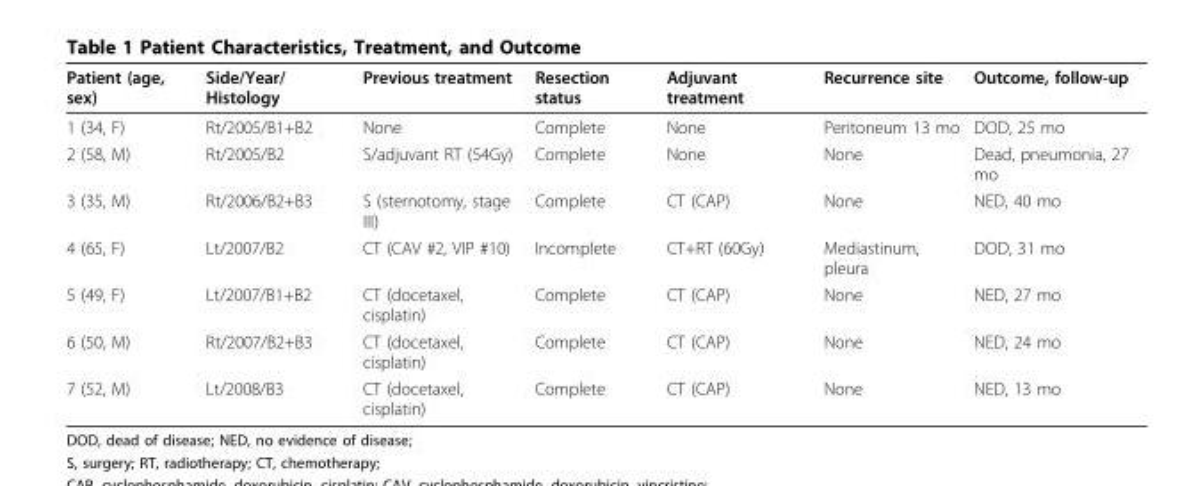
<table><thead><tr><td>Patient (age, sex)</td><td>Side/Year/ Histology</td><td>Previous treatment</td><td>Resection status</td><td>Adjuvant treatment</td><td>Recurrence site</td><td>Outcome, follow-up</td></tr></thead><tbody><tr><td>1 (34, F)</td><td>Rt/2005/B1+B2</td><td>None</td><td>Complete</td><td>None</td><td>Peritoneum 13 mo</td><td>DOD, 25 mo</td></tr><tr><td>2 (58, M)</td><td>Rt/2005/B2</td><td>S/adjuvant RT (54Gy)</td><td>Complete</td><td>None</td><td>None</td><td>Dead, pneumonia, 27 mo</td></tr><tr><td>3 (35, M)</td><td>Rt/2006/B2+B3</td><td>S (sternotomy, stage III)</td><td>Complete</td><td>CT (CAP)</td><td>None</td><td>NED, 40 mo</td></tr><tr><td>4 (65, F)</td><td>Lt/2007/B2</td><td>CT (CAV #2, VIP #10)</td><td>Incomplete</td><td>CT+RT (60Gy)</td><td>Mediastinum, pleura</td><td>DOD, 31 mo</td></tr><tr><td>5 (49, F)</td><td>Lt/2007/B1+B2</td><td>CT (docetaxel, cisplatin)</td><td>Complete</td><td>CT (CAP)</td><td>None</td><td>NED, 27 mo</td></tr><tr><td>6 (50, M)</td><td>Rt/2007/B2+B3</td><td>CT (docetaxel, cisplatin)</td><td>Complete</td><td>CT (CAP)</td><td>None</td><td>NED, 24 mo</td></tr><tr><td>7 (52, M)</td><td>Lt/2008/B3</td><td>CT (docetaxel, cisplatin)</td><td>Complete</td><td>CT (CAP)</td><td>None</td><td>NED, 13 mo</td></tr></tbody></table>